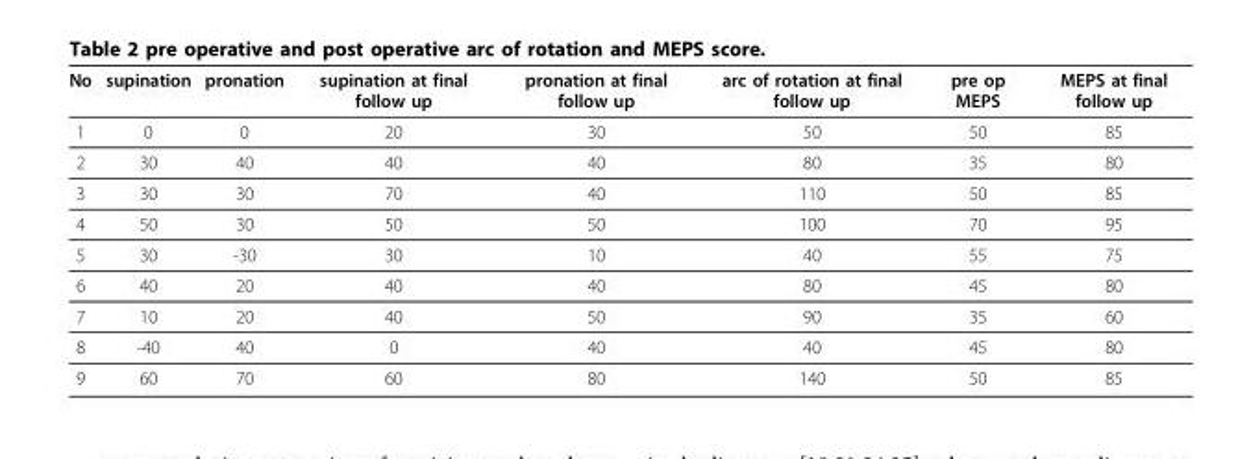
<table><thead><tr><td>No</td><td>supination</td><td>pronation</td><td>supination at final follow up</td><td>pronation at final follow up</td><td>arc of rotation at final follow up</td><td>pre op MEPS</td><td>MEPS at final follow up</td></tr></thead><tbody><tr><td>1</td><td>0</td><td>0</td><td>20</td><td>30</td><td>50</td><td>50</td><td>85</td></tr><tr><td>2</td><td>30</td><td>40</td><td>40</td><td>40</td><td>80</td><td>35</td><td>80</td></tr><tr><td>3</td><td>30</td><td>30</td><td>70</td><td>40</td><td>110</td><td>50</td><td>85</td></tr><tr><td>4</td><td>50</td><td>30</td><td>50</td><td>50</td><td>100</td><td>70</td><td>95</td></tr><tr><td>5</td><td>30</td><td>-30</td><td>30</td><td>10</td><td>40</td><td>55</td><td>75</td></tr><tr><td>6</td><td>40</td><td>20</td><td>40</td><td>40</td><td>80</td><td>45</td><td>80</td></tr><tr><td>7</td><td>10</td><td>20</td><td>40</td><td>50</td><td>90</td><td>35</td><td>60</td></tr><tr><td>8</td><td>-40</td><td>40</td><td>0</td><td>40</td><td>40</td><td>45</td><td>80</td></tr><tr><td>9</td><td>60</td><td>70</td><td>60</td><td>80</td><td>140</td><td>50</td><td>85</td></tr></tbody></table>